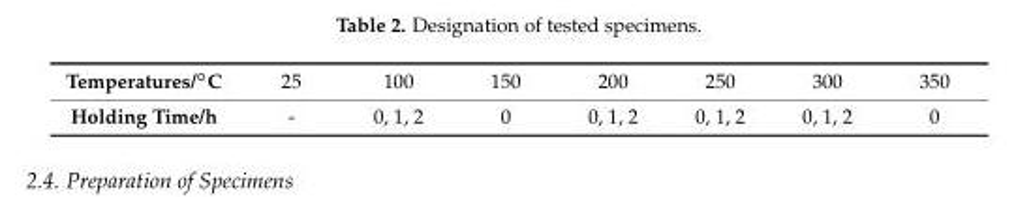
<table><tbody><tr><td>Temperatures/◦C</td><td>25</td><td>100</td><td>150</td><td>200</td><td>250</td><td>300</td><td>350</td></tr><tr><td>Holding Time/h</td><td>-</td><td>0, 1, 2</td><td>0</td><td>0, 1, 2</td><td>0, 1, 2</td><td>0, 1, 2</td><td>0</td></tr></tbody></table>